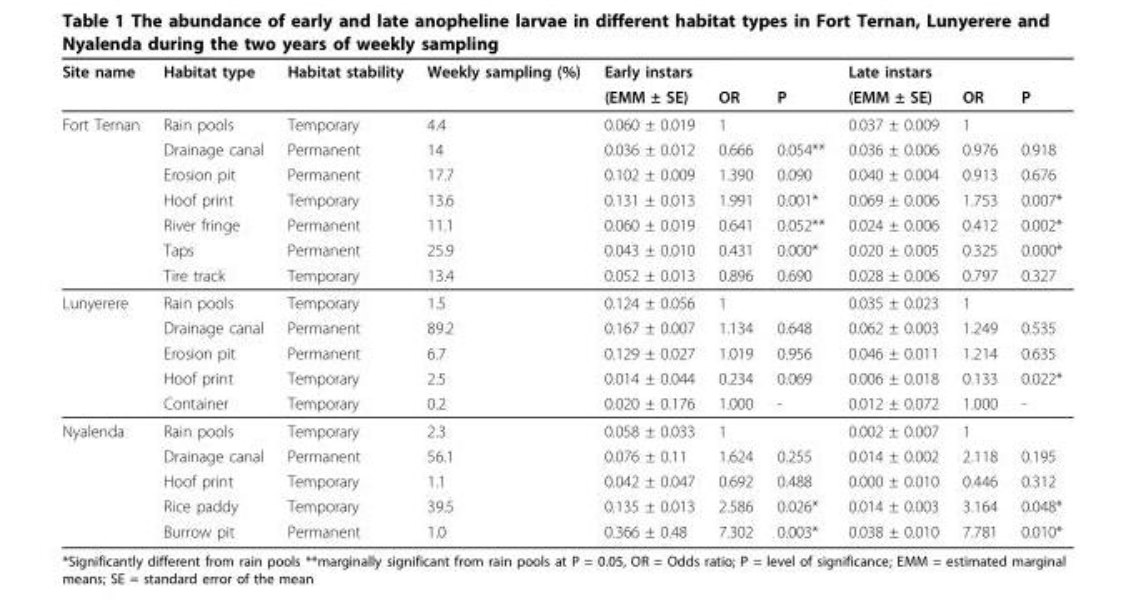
<table><thead><tr><td rowspan="2">Site name</td><td rowspan="2">Habitat type</td><td rowspan="2">Habitat stability</td><td rowspan="2">Weekly sampling (%)</td><td rowspan="2">Early instars (EMM ± SE)</td><td rowspan="2">OR</td><td rowspan="2">P</td><td colspan="2">Late instars</td><td rowspan="2">P</td></tr><tr><td>(EMM ± SE)</td><td>OR</td></tr></thead><tbody><tr><td rowspan="7">Fort Ternan</td><td>Rain pools</td><td>Temporary</td><td>4.4</td><td>0.060 ± 0.019</td><td>1</td><td></td><td>0.037 ± 0.009</td><td>1</td><td></td></tr><tr><td>Drainage canal</td><td>Permanent</td><td>14</td><td>0.036 ± 0.012</td><td>0.666</td><td>0.054**</td><td>0.036 ± 0.006</td><td>0.976</td><td>0.918</td></tr><tr><td>Erosion pit</td><td>Permanent</td><td>17.7</td><td>0.102 ± 0.009</td><td>1.390</td><td>0.090</td><td>0.040 ± 0.004</td><td>0.913</td><td>0.676</td></tr><tr><td>Hoof print</td><td>Temporary</td><td>13.6</td><td>0.131 ± 0.013</td><td>1.991</td><td>0.001*</td><td>0.069 ± 0.006</td><td>1.753</td><td>0.007*</td></tr><tr><td>River fringe</td><td>Permanent</td><td>11.1</td><td>0.060 ± 0.019</td><td>0.641</td><td>0.052**</td><td>0.024 ± 0.006</td><td>0.412</td><td>0.002*</td></tr><tr><td>Taps</td><td>Permanent</td><td>25.9</td><td>0.043 ± 0.010</td><td>0.431</td><td>0.000*</td><td>0.020 ± 0.005</td><td>0.325</td><td>0.000*</td></tr><tr><td>Tire track</td><td>Temporary</td><td>13.4</td><td>0.052 ± 0.013</td><td>0.896</td><td>0.690</td><td>0.028 ± 0.006</td><td>0.797</td><td>0.327</td></tr><tr><td rowspan="5">Lunyerere</td><td>Rain pools</td><td>Temporary</td><td>1.5</td><td>0.124 ± 0.056</td><td>1</td><td></td><td>0.035 ± 0.023</td><td>1</td><td></td></tr><tr><td>Drainage canal</td><td>Permanent</td><td>89.2</td><td>0.167 ± 0.007</td><td>1.134</td><td>0.648</td><td>0.062 ± 0.003</td><td>1.249</td><td>0.535</td></tr><tr><td>Erosion pit</td><td>Permanent</td><td>6.7</td><td>0.129 ± 0.027</td><td>1.019</td><td>0.956</td><td>0.046 ± 0.011</td><td>1.214</td><td>0.635</td></tr><tr><td>Hoof print</td><td>Temporary</td><td>2.5</td><td>0.014 ± 0.044</td><td>0.234</td><td>0.069</td><td>0.006 ± 0.018</td><td>0.133</td><td>0.022*</td></tr><tr><td>Container</td><td>Temporary</td><td>0.2</td><td>0.020 ± 0.176</td><td>1.000</td><td>-</td><td>0.012 ± 0.072</td><td>1.000</td><td>-</td></tr><tr><td rowspan="5">Nyalenda</td><td>Rain pools</td><td>Temporary</td><td>2.3</td><td>0.058 ± 0.033</td><td>1</td><td></td><td>0.002 ± 0.007</td><td>1</td><td></td></tr><tr><td>Drainage canal</td><td>Permanent</td><td>56.1</td><td>0.076 ± 0.11</td><td>1.624</td><td>0.255</td><td>0.014 ± 0.002</td><td>2.118</td><td>0.195</td></tr><tr><td>Hoof print</td><td>Temporary</td><td>1.1</td><td>0.042 ± 0.047</td><td>0.692</td><td>0.488</td><td>0.000 ± 0.010</td><td>0.446</td><td>0.312</td></tr><tr><td>Rice paddy</td><td>Temporary</td><td>39.5</td><td>0.135 ± 0.013</td><td>2.586</td><td>0.026*</td><td>0.014 ± 0.003</td><td>3.164</td><td>0.048*</td></tr><tr><td>Burrow pit</td><td>Permanent</td><td>1.0</td><td>0.366 ± 0.48</td><td>7.302</td><td>0.003*</td><td>0.038 ± 0.010</td><td>7.781</td><td>0.010*</td></tr></tbody></table>